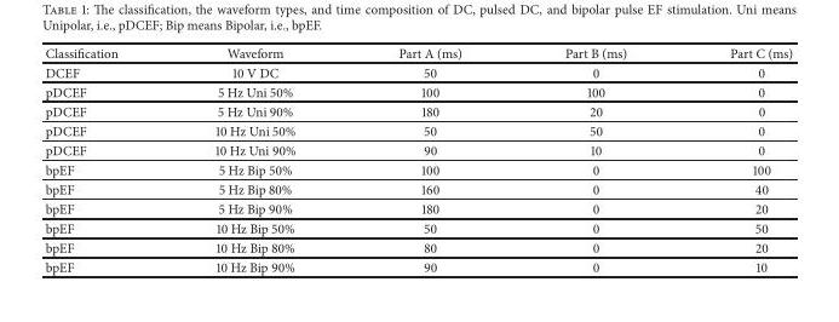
<table><thead><tr><td>Classification</td><td>Waveform</td><td>Part A (ms)</td><td>Part B (ms)</td><td>Part C (ms)</td></tr></thead><tbody><tr><td>DCEF</td><td>10 V DC</td><td>50</td><td>0</td><td>0</td></tr><tr><td>pDCEF</td><td>5 Hz Uni 50%</td><td>100</td><td>100</td><td>0</td></tr><tr><td>pDCEF</td><td>5 Hz Uni 90%</td><td>180</td><td>20</td><td>0</td></tr><tr><td>pDCEF</td><td>10 Hz Uni 50%</td><td>50</td><td>50</td><td>0</td></tr><tr><td>pDCEF</td><td>10 Hz Uni 90%</td><td>90</td><td>10</td><td>0</td></tr><tr><td>bpEF</td><td>5 Hz Bip 50%</td><td>100</td><td>0</td><td>100</td></tr><tr><td>bpEF</td><td>5 Hz Bip 80%</td><td>160</td><td>0</td><td>40</td></tr><tr><td>bpEF</td><td>5 Hz Bip 90%</td><td>180</td><td>0</td><td>20</td></tr><tr><td>bpEF</td><td>10 Hz Bip 50%</td><td>50</td><td>0</td><td>50</td></tr><tr><td>bpEF</td><td>10 Hz Bip 80%</td><td>80</td><td>0</td><td>20</td></tr><tr><td>bpEF</td><td>10 Hz Bip 90%</td><td>90</td><td>0</td><td>10</td></tr></tbody></table>